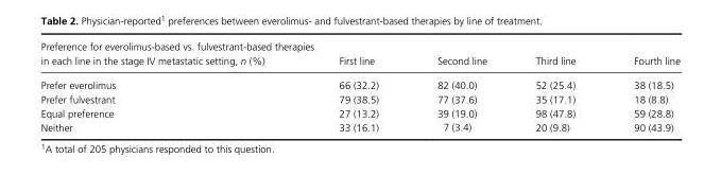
<table><thead><tr><td>Preference for everolimus- based vs. fulvestrant- based therapies in each line in the stage IV metastatic setting, n (%)</td><td>First line</td><td>Second line</td><td>Third line</td><td>Fourth line</td></tr></thead><tbody><tr><td>Prefer everolimus</td><td>66 (32.2)</td><td>82 (40.0)</td><td>52 (25.4)</td><td>38 (18.5)</td></tr><tr><td>Prefer fulvestrant</td><td>79 (38.5)</td><td>77 (37.6)</td><td>35 (17.1)</td><td>18 (8.8)</td></tr><tr><td>Equal preference</td><td>27 (13.2)</td><td>39 (19.0)</td><td>98 (47.8)</td><td>59 (28.8)</td></tr><tr><td>Neither</td><td>33 (16.1)</td><td>7 (3.4)</td><td>20 (9.8)</td><td>90 (43.9)</td></tr></tbody></table>